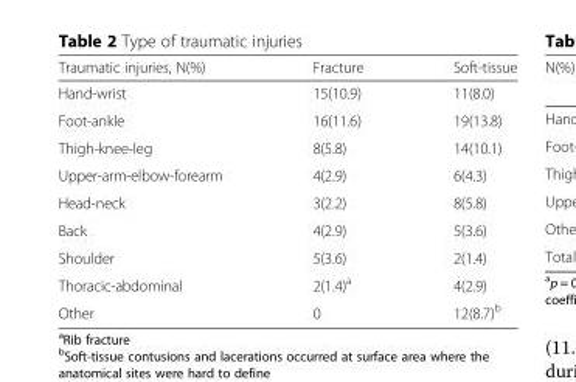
<table><thead><tr><td>Traumatic injuries, N(%)</td><td>Fracture</td><td>Soft-tissue</td></tr></thead><tbody><tr><td>Hand-wrist</td><td>15(10.9)</td><td>11(8.0)</td></tr><tr><td>Foot-ankle</td><td>16(11.6)</td><td>19(13.8)</td></tr><tr><td>Thigh-knee-leg</td><td>8(5.8)</td><td>14(10.1)</td></tr><tr><td>Upper-arm-elbow-forearm</td><td>4(2.9)</td><td>6(4.3)</td></tr><tr><td>Head-neck</td><td>3(2.2)</td><td>8(5.8)</td></tr><tr><td>Back</td><td>4(2.9)</td><td>5(3.6)</td></tr><tr><td>Shoulder</td><td>5(3.6)</td><td>2(1.4)</td></tr><tr><td>Thoracic-abdominal</td><td>2(1.4)<sup>a</sup></td><td>4(2.9)</td></tr><tr><td>Other</td><td>0</td><td>12(8.7)<sup>b</sup></td></tr></tbody></table>